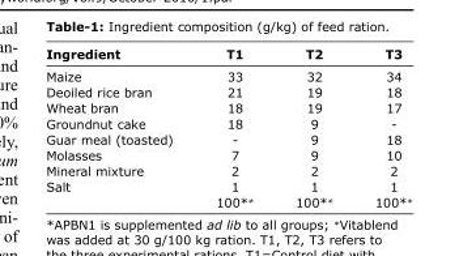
<table><thead><tr><td>Ingredient</td><td>T1</td><td>T2</td><td>T3</td></tr></thead><tbody><tr><td>Maize</td><td>33</td><td>32</td><td>34</td></tr><tr><td>Deoiled rice bran</td><td>21</td><td>19</td><td>18</td></tr><tr><td>Wheat bran</td><td>18</td><td>19</td><td>17</td></tr><tr><td>Groundnut cake</td><td>18</td><td>9</td><td>-</td></tr><tr><td>Guar meal (toasted)</td><td>-</td><td>9</td><td>18</td></tr><tr><td>Molasses</td><td>7</td><td>9</td><td>10</td></tr><tr><td>Mineral mixture</td><td>2</td><td>2</td><td>2</td></tr><tr><td rowspan="2">Salt</td><td>1</td><td>1</td><td>1</td></tr><tr><td>100*<sup>≠</sup></td><td>100*<sup>≠</sup></td><td>100*<sup>≠</sup></td></tr></tbody></table>